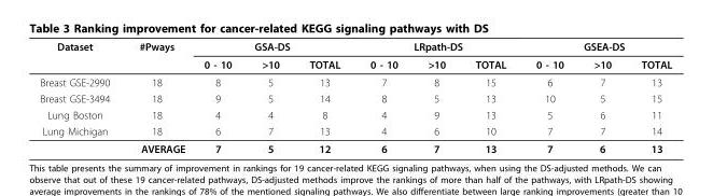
<table><thead><tr><td rowspan="2">Dataset</td><td rowspan="2">#Pways</td><td colspan="3">GSA-DS</td><td colspan="3">LRpath-DS</td><td colspan="3">GSEA-DS</td></tr><tr><td>0 - 10</td><td>&gt;10</td><td>TOTAL</td><td>0 - 10</td><td>&gt;10</td><td>TOTAL</td><td>0 - 10</td><td>&gt;10</td><td>TOTAL</td></tr></thead><tbody><tr><td>Breast GSE-2990</td><td>18</td><td>8</td><td>5</td><td>13</td><td>7</td><td>8</td><td>15</td><td>6</td><td>7</td><td>13</td></tr><tr><td>Breast GSE-3494</td><td>18</td><td>9</td><td>5</td><td>14</td><td>8</td><td>5</td><td>13</td><td>10</td><td>5</td><td>15</td></tr><tr><td>Lung Boston</td><td>18</td><td>4</td><td>4</td><td>8</td><td>4</td><td>9</td><td>13</td><td>5</td><td>6</td><td>11</td></tr><tr><td>Lung Michigan</td><td>18</td><td>6</td><td>7</td><td>13</td><td>4</td><td>6</td><td>10</td><td>7</td><td>7</td><td>14</td></tr><tr><td colspan="2">AVERAGE</td><td>7</td><td>5</td><td>12</td><td>6</td><td>7</td><td>13</td><td>7</td><td>6</td><td>13</td></tr></tbody></table>